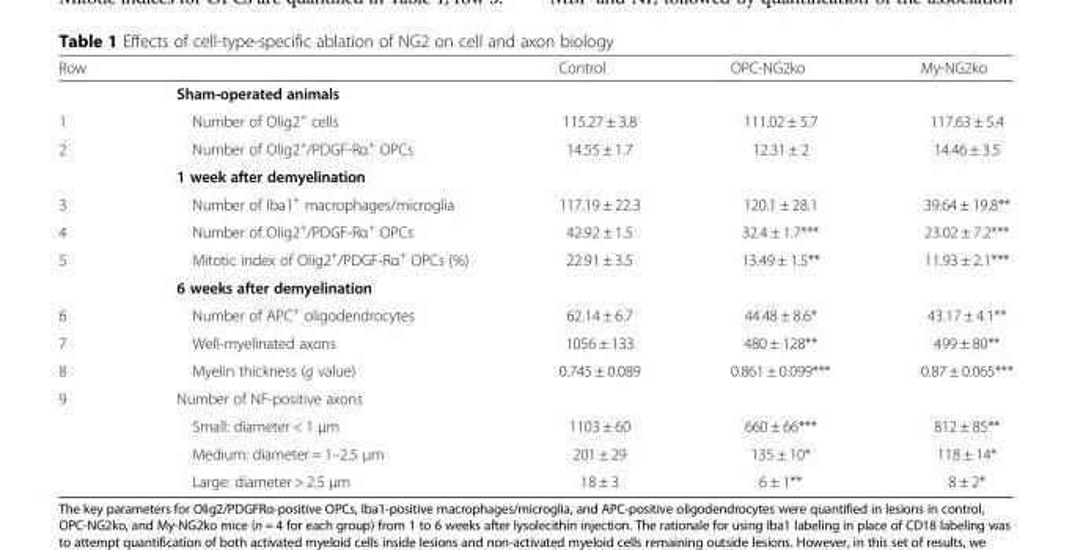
<table><thead><tr><td>Row</td><td></td><td>Control</td><td>OPC-NG2ko</td><td>My-NG2ko</td></tr></thead><tbody><tr><td></td><td>Sham-operated animals</td><td></td><td></td><td></td></tr><tr><td>1</td><td>Number of Olig2<sup>+</sup> cells</td><td>115.27 ± 3.8</td><td>111.02 ± 5.7</td><td>117.63 ± 5.4</td></tr><tr><td rowspan="2">2</td><td>Number of Olig2<sup>+</sup>/PDGF-Rα<sup>+</sup> OPCs</td><td>14.55 ± 1.7</td><td>12.31 ± 2</td><td>14.46 ± 3.5</td></tr><tr><td>1 week after demyelination</td><td></td><td></td><td></td></tr><tr><td>3</td><td>Number of Iba1<sup>+</sup> macrophages/microglia</td><td>117.19 ± 22.3</td><td>120.1 ± 28.1</td><td>39.64 ± 19.8**</td></tr><tr><td>4</td><td>Number of Olig2<sup>+</sup>/PDGF-Rα<sup>+</sup> OPCs</td><td>42.92 ± 1.5</td><td>32.4 ± 1.7***</td><td>23.02 ± 7.2***</td></tr><tr><td rowspan="2">5</td><td>Mitotic index of Olig2<sup>+</sup>/PDGF-Rα<sup>+</sup> OPCs (%)</td><td>22.91 ± 3.5</td><td>13.49 ± 1.5**</td><td>11.93 ± 2.1***</td></tr><tr><td>6 weeks after demyelination</td><td></td><td></td><td></td></tr><tr><td>6</td><td>Number of APC<sup>+</sup> oligodendrocytes</td><td>62.14 ± 6.7</td><td>44.48 ± 8.6*</td><td>43.17 ± 4.1**</td></tr><tr><td>7</td><td>Well-myelinated axons</td><td>1056 ± 133</td><td>480 ± 128**</td><td>499 ± 80**</td></tr><tr><td>8</td><td>Myelin thickness (g value)</td><td>0.745 ± 0.089</td><td>0.861 ± 0.099***</td><td>0.87 ± 0.065***</td></tr><tr><td rowspan="4">9</td><td>Number of NF-positive axons</td><td></td><td></td><td></td></tr><tr><td>Small: diameter &lt; 1 μm</td><td>1103 ± 60</td><td>660 ± 66***</td><td>812 ± 85**</td></tr><tr><td>Medium: diameter = 1–2.5 μm</td><td>201 ± 29</td><td>135 ± 10*</td><td>118 ± 14*</td></tr><tr><td>Large: diameter &gt; 2.5 μm</td><td>18 ± 3</td><td>6 ± 1**</td><td>8 ± 2*</td></tr></tbody></table>